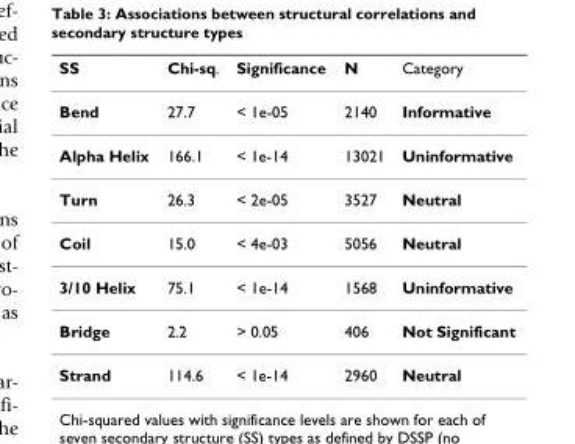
<table><thead><tr><td>SS</td><td>Chi-sq.</td><td>Significance</td><td>N</td><td>Category</td></tr></thead><tbody><tr><td>Bend</td><td>27.7</td><td>&lt; 1e-05</td><td>2140</td><td>Informative</td></tr><tr><td>Alpha Helix</td><td>166.1</td><td>&lt; 1e-14</td><td>13021</td><td>Uninformative</td></tr><tr><td>Turn</td><td>26.3</td><td>&lt; 2e-05</td><td>3527</td><td>Neutral</td></tr><tr><td>Coil</td><td>15.0</td><td>&lt; 4e-03</td><td>5056</td><td>Neutral</td></tr><tr><td>3/10 Helix</td><td>75.1</td><td>&lt; 1e-14</td><td>1568</td><td>Uninformative</td></tr><tr><td>Bridge</td><td>2.2</td><td>&gt; 0.05</td><td>406</td><td>Not Significant</td></tr><tr><td>Strand</td><td>114.6</td><td>&lt; 1e-14</td><td>2960</td><td>Neutral</td></tr></tbody></table>